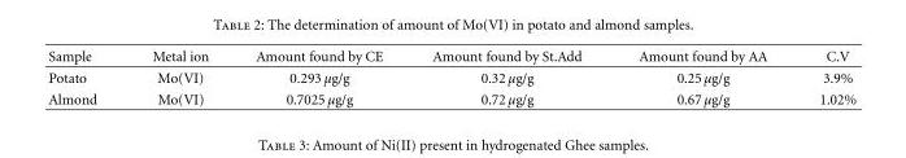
<table><thead><tr><td>Sample</td><td>Metal ion</td><td>Amount found by CE</td><td>Amount found by St.Add</td><td>Amount found by AA</td><td>C.V</td></tr></thead><tbody><tr><td>Potato</td><td>Mo(VI)</td><td>0.293 µg/g</td><td>0.32 µg/g</td><td>0.25 µg/g</td><td>3.9%</td></tr><tr><td>Almond</td><td>Mo(VI)</td><td>0.7025 µg/g</td><td>0.72 µg/g</td><td>0.67 µg/g</td><td>1.02%</td></tr></tbody></table>